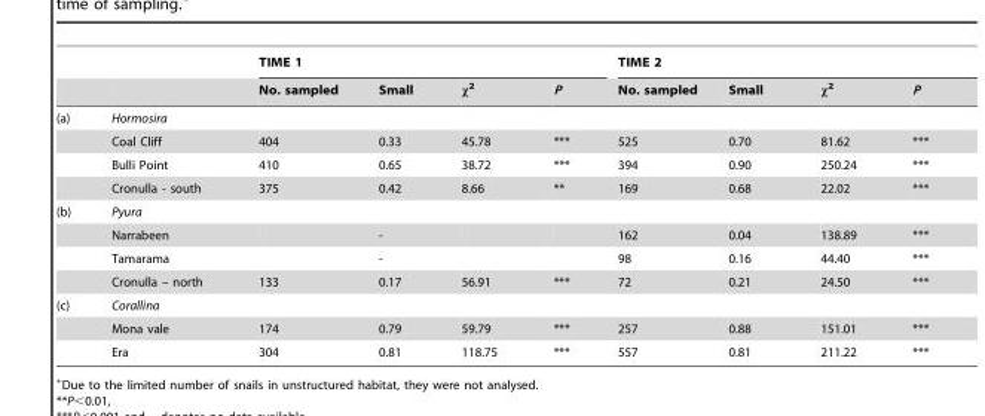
<table><thead><tr><td rowspan="2"></td><td rowspan="2"></td><td colspan="4">TIME 1</td><td colspan="4">TIME 2</td></tr><tr><td>No. sampled</td><td>Small</td><td>x2</td><td>P</td><td>No. sampled</td><td>Small</td><td>x2</td><td>P</td></tr></thead><tbody><tr><td rowspan="4">(a)</td><td>Hormosira</td><td></td><td></td><td></td><td></td><td></td><td></td><td></td><td></td></tr><tr><td>Coal Cliff</td><td>404</td><td>0.33</td><td>45.78</td><td>***</td><td>525</td><td>0.70</td><td>81.62</td><td>***</td></tr><tr><td>Bulli Point</td><td>410</td><td>0.65</td><td>38.72</td><td>***</td><td>394</td><td>0.90</td><td>250.24</td><td>***</td></tr><tr><td>Cronulla - south</td><td>375</td><td>0.42</td><td>8.66</td><td>**</td><td>169</td><td>0.68</td><td>22.02</td><td>***</td></tr><tr><td rowspan="4">(b)</td><td>Pyura</td><td></td><td></td><td></td><td></td><td></td><td></td><td></td><td></td></tr><tr><td>Narrabeen</td><td></td><td>-</td><td></td><td></td><td>162</td><td>0.04</td><td>138.89</td><td>***</td></tr><tr><td>Tamarama</td><td></td><td>-</td><td></td><td></td><td>98</td><td>0.16</td><td>44.40</td><td>***</td></tr><tr><td>Cronulla – north</td><td>133</td><td>0.17</td><td>56.91</td><td>***</td><td>72</td><td>0.21</td><td>24.50</td><td>***</td></tr><tr><td rowspan="3">(c)</td><td>Corallina</td><td></td><td></td><td></td><td></td><td></td><td></td><td></td><td></td></tr><tr><td>Mona vale</td><td>174</td><td>0.79</td><td>59.79</td><td>***</td><td>257</td><td>0.88</td><td>151.01</td><td>***</td></tr><tr><td>Era</td><td>304</td><td>0.81</td><td>118.75</td><td>***</td><td>557</td><td>0.81</td><td>211.22</td><td>***</td></tr></tbody></table>